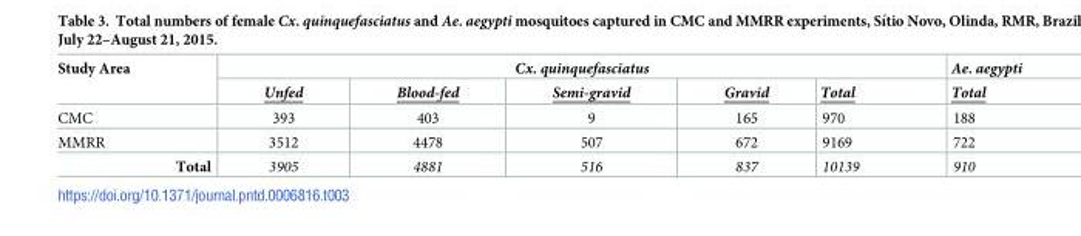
<table><thead><tr><td rowspan="2">Study Area</td><td colspan="5">Cx. quinquefasciatus</td><td rowspan="2">Ae. aegypti Total</td></tr><tr><td>Unfed</td><td>Blood-fed</td><td>Semi-gravid</td><td>Gravid</td><td>Total</td></tr></thead><tbody><tr><td>CMC</td><td>393</td><td>403</td><td>9</td><td>165</td><td>970</td><td>188</td></tr><tr><td>MMRR</td><td>3512</td><td>4478</td><td>507</td><td>672</td><td>9169</td><td>722</td></tr><tr><td>Total</td><td>3905</td><td>4881</td><td>516</td><td>837</td><td>10139</td><td>910</td></tr></tbody></table>